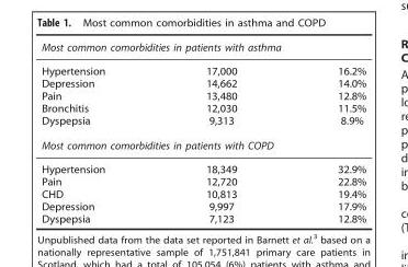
<table><thead><tr><td colspan="3">Most common comorbidities in patients with asthma</td></tr><tr><td>Hypertension</td><td>17,000</td><td>16.2%</td></tr></thead><tbody><tr><td>Depression</td><td>14,662</td><td>14.0%</td></tr><tr><td>Pain</td><td>13,480</td><td>12.8%</td></tr><tr><td>Bronchitis</td><td>12,030</td><td>11.5%</td></tr><tr><td>Dyspepsia</td><td>9,313</td><td>8.9%</td></tr><tr><td colspan="3">Most common comorbidities in patients with COPD</td></tr><tr><td>Hypertension</td><td>18,349</td><td>32.9%</td></tr><tr><td>Pain</td><td>12,720</td><td>22.8%</td></tr><tr><td>CHD</td><td>10,813</td><td>19.4%</td></tr><tr><td>Depression</td><td>9,997</td><td>17.9%</td></tr><tr><td>Dyspepsia</td><td>7,123</td><td>12.8%</td></tr></tbody></table>